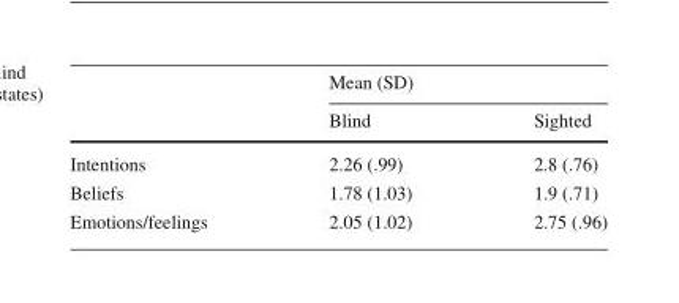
<table><thead><tr><td rowspan="2"></td><td colspan="2">Mean (SD)</td></tr><tr><td>Blind</td><td>Sighted</td></tr></thead><tbody><tr><td>Intentions</td><td>2.26 (.99)</td><td>2.8 (.76)</td></tr><tr><td>Beliefs</td><td>1.78 (1.03)</td><td>1.9 (.71)</td></tr><tr><td>Emotions/feelings</td><td>2.05 (1.02)</td><td>2.75 (.96)</td></tr></tbody></table>